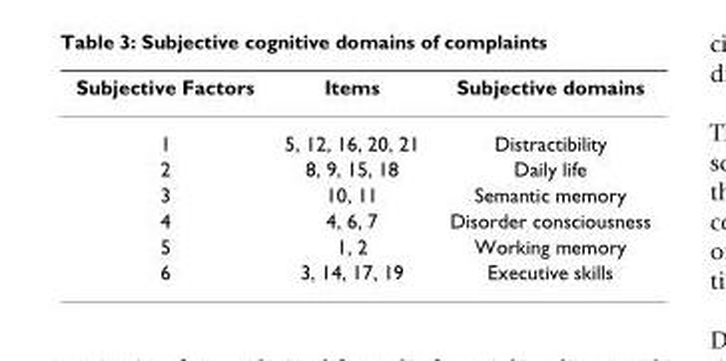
<table><thead><tr><td>Subjective Factors</td><td>Items</td><td>Subjective domains</td></tr></thead><tbody><tr><td>1</td><td>5, 12, 16, 20, 21</td><td>Distractibility</td></tr><tr><td>2</td><td>8, 9, 15, 18</td><td>Daily life</td></tr><tr><td>3</td><td>10, 11</td><td>Semantic memory</td></tr><tr><td>4</td><td>4, 6, 7</td><td>Disorder consciousness</td></tr><tr><td>5</td><td>1, 2</td><td>Working memory</td></tr><tr><td>6</td><td>3, 14, 17, 19</td><td>Executive skills</td></tr></tbody></table>